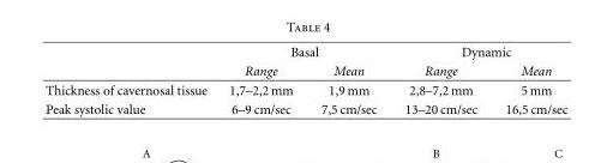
<table><thead><tr><td rowspan="2"></td><td colspan="2">Basal</td><td colspan="2">Dynamic</td></tr><tr><td>Range</td><td>Mean</td><td>Range</td><td>Mean</td></tr></thead><tbody><tr><td>Thickness of cavernosal tissue</td><td>1,7–2,2 mm</td><td>1,9 mm</td><td>2,8–7,2 mm</td><td>5 mm</td></tr><tr><td>Peak systolic value</td><td>6–9 cm/sec</td><td>7,5 cm/sec</td><td>13–20 cm/sec</td><td>16,5 cm/sec</td></tr></tbody></table>